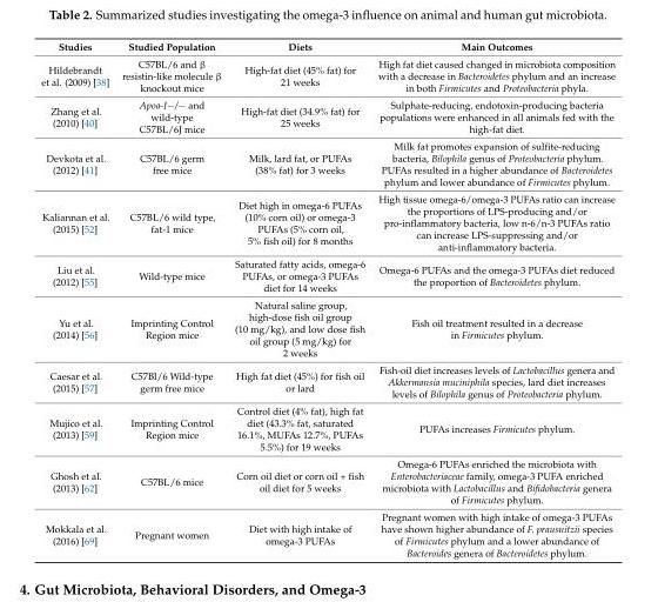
<table><thead><tr><td>Studies</td><td>Studied Population</td><td>Diets</td><td>Main Outcomes</td></tr></thead><tbody><tr><td>Hildebrandt et al. (2009) [38]</td><td>C57BL/6 and β resistin-like molecule β knockout mice</td><td>High-fat diet (45% fat) for 21 weeks</td><td>High fat diet caused changed in microbiota composition with a decrease in Bacteroidetes phylum and an increase in both Firmicutes and Proteobacteria phyla.</td></tr><tr><td>Zhang et al. (2010) [40]</td><td>Apoa-I−/− and wild-type C57BL/6J mice</td><td>High-fat diet (34.9% fat) for 25 weeks</td><td>Sulphate-reducing, endotoxin-producing bacteria populations were enhanced in all animals fed with the high-fat diet.</td></tr><tr><td>Devkota et al. (2012) [41]</td><td>C57BL/6 germ free mice</td><td>Milk, lard fat, or PUFAs (38% fat) for 3 weeks</td><td>Milk fat promotes expansion of sulfite-reducing bacteria, Bilophila genus of Proteobacteria phylum. PUFAs resulted in a higher abundance of Bacteroidetes phylum and lower abundance of Firmicutes phylum.</td></tr><tr><td>Kaliannan et al. (2015) [52]</td><td>C57BL/6 wild type, fat-1 mice</td><td>Diet high in omega-6 PUFAs (10% corn oil) or omega-3 PUFAs (5% corn oil, 5% fish oil) for 8 months</td><td>High tissue omega-6/omega-3 PUFAs ratio can increase the proportions of LPS-producing and/or pro-inflammatory bacteria, low n-6/n-3 PUFAs ratio can increase LPS-suppressing and/or anti-inflammatory bacteria.</td></tr><tr><td>Liu et al. (2012) [55]</td><td>Wild-type mice</td><td>Saturated fatty acids, omega-6 PUFAs, or omega-3 PUFAs diet for 14 weeks</td><td>Omega-6 PUFAs and the omega-3 PUFAs diet reduced the proportion of Bacteroidetes phylum.</td></tr><tr><td>Yu et al. (2014) [56]</td><td>Imprinting Control Region mice</td><td>Natural saline group, high-dose fish oil group (10 mg/kg), and low dose fish oil group (5 mg/kg) for 2 weeks</td><td>Fish oil treatment resulted in a decrease in Firmicutes phylum.</td></tr><tr><td>Caesar et al. (2015) [57]</td><td>C57Bl/6 Wild-type germ free mice</td><td>High fat diet (45%) for fish oil or lard</td><td>Fish-oil diet increases levels of Lactobacillus genera and Akkermansia muciniphila species, lard diet increases levels of Bilophila genus of Proteobacteria phylum.</td></tr><tr><td>Mujico et al. (2013) [59]</td><td>Imprinting Control Region mice</td><td>Control diet (4% fat), high fat diet (43.3% fat, saturated 16.1%, MUFAs 12.7%, PUFAs 5.5%) for 19 weeks</td><td>PUFAs increases Firmicutes phylum.</td></tr><tr><td>Ghosh et al. (2013) [62]</td><td>C57BL/6 mice</td><td>Corn oil diet or corn oil + fish oil diet for 5 weeks</td><td>Omega-6 PUFAs enriched the microbiota with Enterobacteriaceae family, omega-3 PUFA enriched microbiota with Lactobacillus and Bifidobacteria genera of Firmicutes phylum.</td></tr><tr><td>Mokkala et al. (2016) [69]</td><td>Pregnant women</td><td>Diet with high intake of omega-3 PUFAs</td><td>Pregnant women with high intake of omega-3 PUFAs have shown higher abundance of F. prausnitzii species of Firmicutes phylum and a lower abundance of Bacteroides genera of Bacteroidetes phylum.</td></tr></tbody></table>